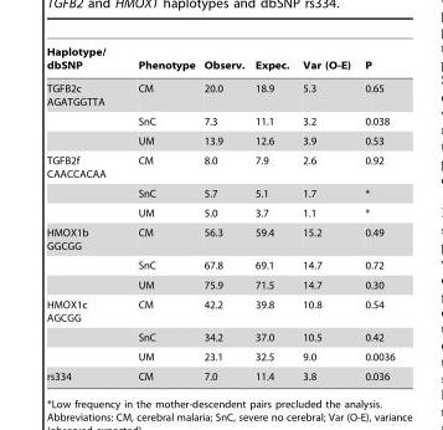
<table><thead><tr><td>Haplotype/ dbSNP</td><td>Phenotype</td><td>Observ.</td><td>Expec.</td><td>Var (O-E)</td><td>P</td></tr></thead><tbody><tr><td rowspan="3">TGFB2c AGATGGTTA</td><td>CM</td><td>20.0</td><td>18.9</td><td>5.3</td><td>0.65</td></tr><tr><td>SnC</td><td>7.3</td><td>11.1</td><td>3.2</td><td>0.038</td></tr><tr><td>UM</td><td>13.9</td><td>12.6</td><td>3.9</td><td>0.53</td></tr><tr><td rowspan="3">TGFB2f CAACCACAA</td><td>CM</td><td>8.0</td><td>7.9</td><td>2.6</td><td>0.92</td></tr><tr><td>SnC</td><td>5.7</td><td>5.1</td><td>1.7</td><td>*</td></tr><tr><td>UM</td><td>5.0</td><td>3.7</td><td>1.1</td><td>*</td></tr><tr><td rowspan="3">HMOX1b GGCGG</td><td>CM</td><td>56.3</td><td>59.4</td><td>15.2</td><td>0.49</td></tr><tr><td>SnC</td><td>67.8</td><td>69.1</td><td>14.7</td><td>0.72</td></tr><tr><td>UM</td><td>75.9</td><td>71.5</td><td>14.7</td><td>0.30</td></tr><tr><td rowspan="3">HMOX1c AGCGG</td><td>CM</td><td>42.2</td><td>39.8</td><td>10.8</td><td>0.54</td></tr><tr><td>SnC</td><td>34.2</td><td>37.0</td><td>10.5</td><td>0.42</td></tr><tr><td>UM</td><td>23.1</td><td>32.5</td><td>9.0</td><td>0.0036</td></tr><tr><td>rs334</td><td>CM</td><td>7.0</td><td>11.4</td><td>3.8</td><td>0.036</td></tr></tbody></table>